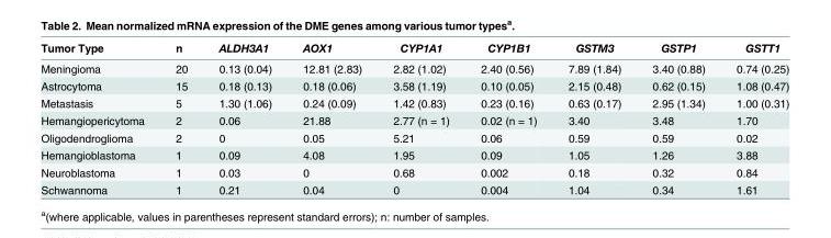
<table><thead><tr><td>Tumor Type</td><td>n</td><td>ALDH3A1</td><td>AOX1</td><td>CYP1A1</td><td>CYP1B1</td><td>GSTM3</td><td>GSTP1</td><td>GSTT1</td></tr></thead><tbody><tr><td>Meningioma</td><td>20</td><td>0.13 (0.04)</td><td>12.81 (2.83)</td><td>2.82 (1.02)</td><td>2.40 (0.56)</td><td>7.89 (1.84)</td><td>3.40 (0.88)</td><td>0.74 (0.25)</td></tr><tr><td>Astrocytoma</td><td>15</td><td>0.18 (0.13)</td><td>0.18 (0.06)</td><td>3.58 (1.19)</td><td>0.10 (0.05)</td><td>2.15 (0.48)</td><td>0.62 (0.15)</td><td>1.08 (0.47)</td></tr><tr><td>Metastasis</td><td>5</td><td>1.30 (1.06)</td><td>0.24 (0.09)</td><td>1.42 (0.83)</td><td>0.23 (0.16)</td><td>0.63 (0.17)</td><td>2.95 (1.34)</td><td>1.00 (0.31)</td></tr><tr><td>Hemangiopericytoma</td><td>2</td><td>0.06</td><td>21.88</td><td>2.77 (n = 1)</td><td>0.02 (n = 1)</td><td>3.40</td><td>3.48</td><td>1.70</td></tr><tr><td>Oligodendroglioma</td><td>2</td><td>0</td><td>0.05</td><td>5.21</td><td>0.06</td><td>0.59</td><td>0.59</td><td>0.02</td></tr><tr><td>Hemangioblastoma</td><td>1</td><td>0.09</td><td>4.08</td><td>1.95</td><td>0.09</td><td>1.05</td><td>1.26</td><td>3.88</td></tr><tr><td>Neuroblastoma</td><td>1</td><td>0.03</td><td>0</td><td>0.68</td><td>0.002</td><td>0.18</td><td>0.32</td><td>0.84</td></tr><tr><td>Schwannoma</td><td>1</td><td>0.21</td><td>0.04</td><td>0</td><td>0.004</td><td>1.04</td><td>0.34</td><td>1.61</td></tr></tbody></table>